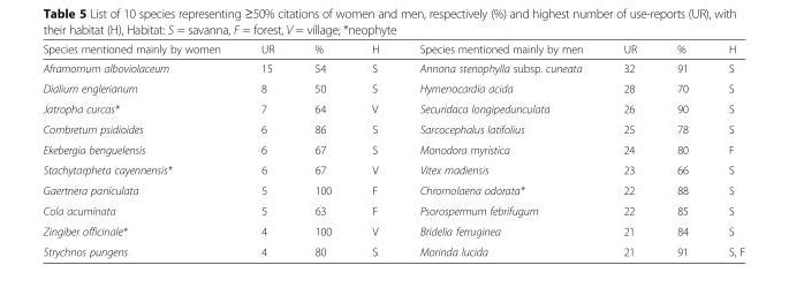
<table><thead><tr><td>Species mentioned mainly by women</td><td>UR</td><td>%</td><td>H</td><td>Species mentioned mainly by men</td><td>UR</td><td>%</td><td>H</td></tr></thead><tbody><tr><td>Aframomum alboviolaceum</td><td>15</td><td>54</td><td>S</td><td>Annona stenophylla subsp. cuneata</td><td>32</td><td>91</td><td>S</td></tr><tr><td>Dialium englerianum</td><td>8</td><td>50</td><td>S</td><td>Hymenocardia acida</td><td>28</td><td>70</td><td>S</td></tr><tr><td>Jatropha curcas*</td><td>7</td><td>64</td><td>V</td><td>Securidaca longipedunculata</td><td>26</td><td>90</td><td>S</td></tr><tr><td>Combretum psidioides</td><td>6</td><td>86</td><td>S</td><td>Sarcocephalus latifolius</td><td>25</td><td>78</td><td>S</td></tr><tr><td>Ekebergia benguelensis</td><td>6</td><td>67</td><td>S</td><td>Monodora myristica</td><td>24</td><td>80</td><td>F</td></tr><tr><td>Stachytarpheta cayennensis*</td><td>6</td><td>67</td><td>V</td><td>Vitex madiensis</td><td>23</td><td>66</td><td>S</td></tr><tr><td>Gaertnera paniculata</td><td>5</td><td>100</td><td>F</td><td>Chromolaena odorata*</td><td>22</td><td>88</td><td>S</td></tr><tr><td>Cola acuminata</td><td>5</td><td>63</td><td>F</td><td>Psorospermum febrifugum</td><td>22</td><td>85</td><td>S</td></tr><tr><td>Zingiber officinale*</td><td>4</td><td>100</td><td>V</td><td>Bridelia ferruginea</td><td>21</td><td>84</td><td>S</td></tr><tr><td>Strychnos pungens</td><td>4</td><td>80</td><td>S</td><td>Morinda lucida</td><td>21</td><td>91</td><td>S, F</td></tr></tbody></table>